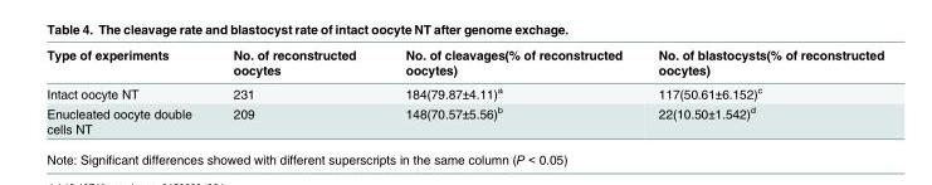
<table><thead><tr><td>Type of experiments</td><td>No. of reconstructed oocytes</td><td>No. of cleavages(% of reconstructed oocytes)</td><td>No. of blastocysts(% of reconstructed oocytes)</td></tr></thead><tbody><tr><td>Intact oocyte NT</td><td>231</td><td>184(79.87±4.11)<sup>a</sup></td><td>117(50.61±6.152)<sup>c</sup></td></tr><tr><td>Enucleated oocyte double cells NT</td><td>209</td><td>148(70.57±5.56)<sup>b</sup></td><td>22(10.50±1.542)<sup>d</sup></td></tr></tbody></table>